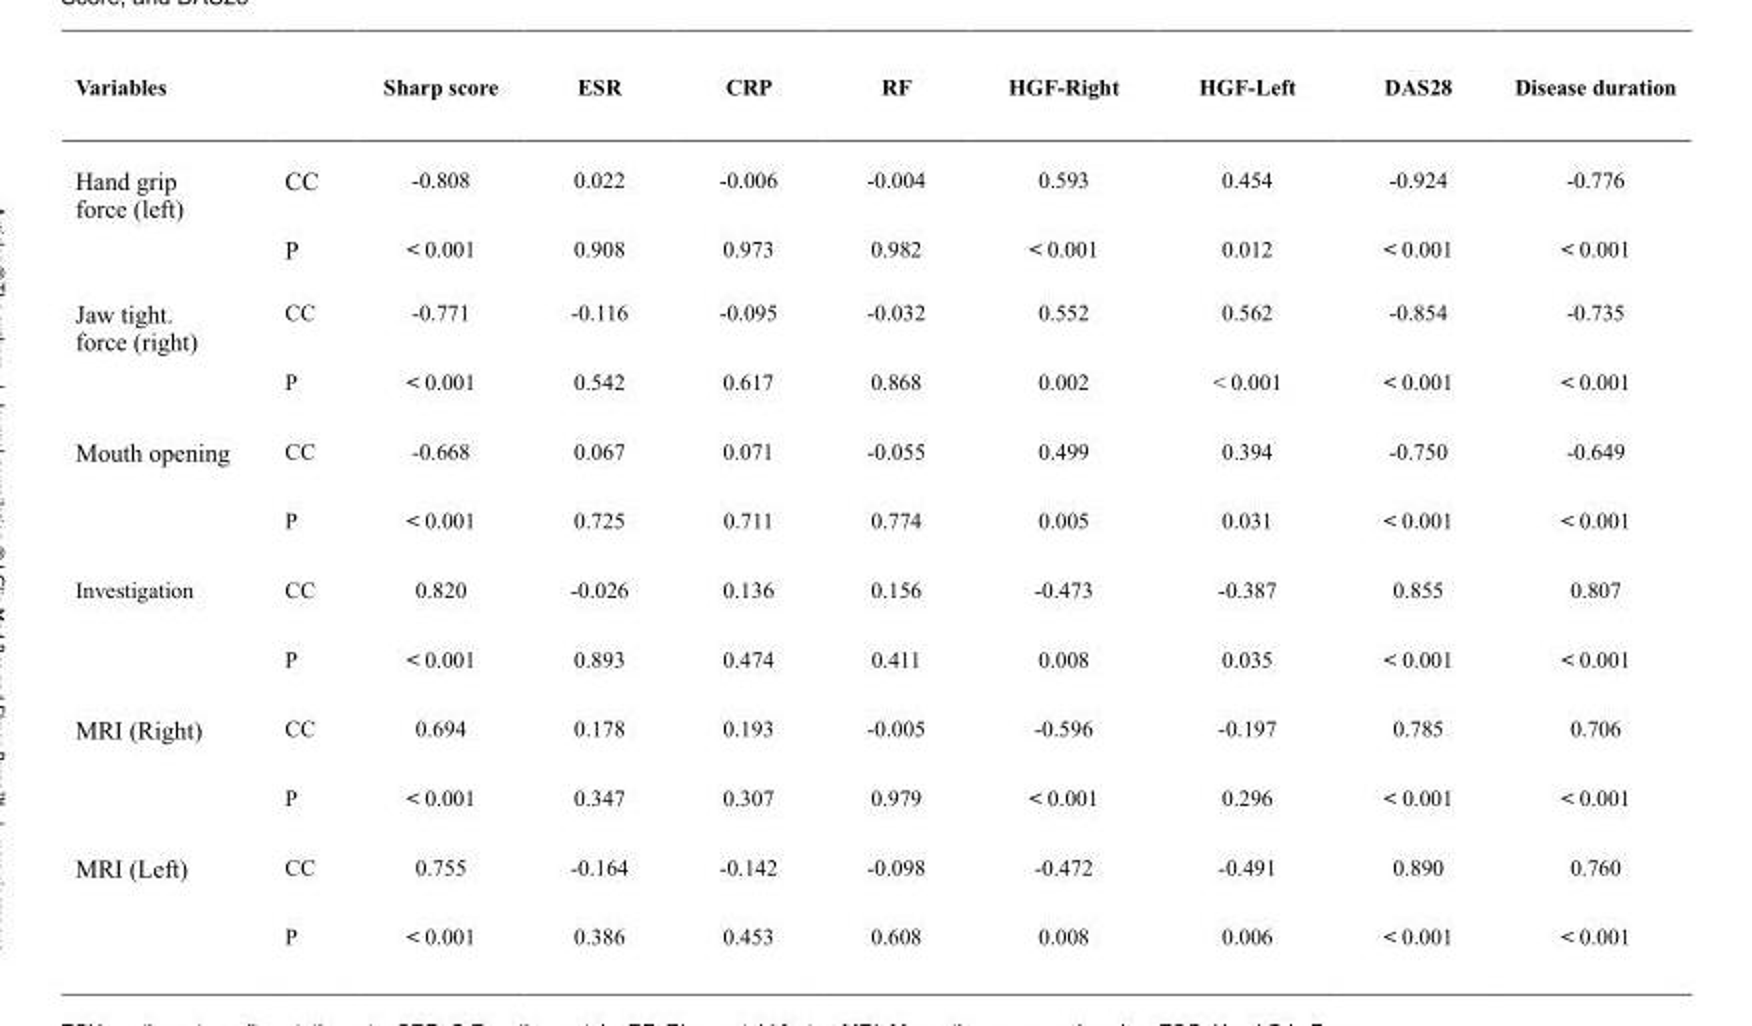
<table><thead><tr><td>Variables</td><td></td><td>Sharp score</td><td>ESR</td><td>CRP</td><td>RF</td><td>HGF-Right</td><td>HGF-Left</td><td>DAS28</td><td>Disease duration</td></tr></thead><tbody><tr><td rowspan="2">Hand grip force (left)</td><td>CC</td><td>-0.808</td><td>0.022</td><td>-0.006</td><td>-0.004</td><td>0.593</td><td>0.454</td><td>-0.924</td><td>-0.776</td></tr><tr><td>P</td><td>&lt; 0.001</td><td>0.908</td><td>0.973</td><td>0.982</td><td>&lt; 0.001</td><td>0.012</td><td>&lt; 0.001</td><td>&lt; 0.001</td></tr><tr><td rowspan="2">Jaw tight. force (right)</td><td>CC</td><td>-0.771</td><td>-0.116</td><td>-0.095</td><td>-0.032</td><td>0.552</td><td>0.562</td><td>-0.854</td><td>-0.735</td></tr><tr><td>P</td><td>&lt; 0.001</td><td>0.542</td><td>0.617</td><td>0.868</td><td>0.002</td><td>&lt; 0.001</td><td>&lt; 0.001</td><td>&lt; 0.001</td></tr><tr><td rowspan="2">Mouth opening</td><td>CC</td><td>-0.668</td><td>0.067</td><td>0.071</td><td>-0.055</td><td>0.499</td><td>0.394</td><td>-0.750</td><td>-0.649</td></tr><tr><td>P</td><td>&lt; 0.001</td><td>0.725</td><td>0.711</td><td>0.774</td><td>0.005</td><td>0.031</td><td>&lt; 0.001</td><td>&lt; 0.001</td></tr><tr><td rowspan="2">Investigation</td><td>CC</td><td>0.820</td><td>-0.026</td><td>0.136</td><td>0.156</td><td>-0.473</td><td>-0.387</td><td>0.855</td><td>0.807</td></tr><tr><td>P</td><td>&lt; 0.001</td><td>0.893</td><td>0.474</td><td>0.411</td><td>0.008</td><td>0.035</td><td>&lt; 0.001</td><td>&lt; 0.001</td></tr><tr><td rowspan="2">MRI (Right)</td><td>CC</td><td>0.694</td><td>0.178</td><td>0.193</td><td>-0.005</td><td>-0.596</td><td>-0.197</td><td>0.785</td><td>0.706</td></tr><tr><td>P</td><td>&lt; 0.001</td><td>0.347</td><td>0.307</td><td>0.979</td><td>&lt; 0.001</td><td>0.296</td><td>&lt; 0.001</td><td>&lt; 0.001</td></tr><tr><td rowspan="2">MRI (Left)</td><td>CC</td><td>0.755</td><td>-0.164</td><td>-0.142</td><td>-0.098</td><td>-0.472</td><td>-0.491</td><td>0.890</td><td>0.760</td></tr><tr><td>P</td><td>&lt; 0.001</td><td>0.386</td><td>0.453</td><td>0.608</td><td>0.008</td><td>0.006</td><td>&lt; 0.001</td><td>&lt; 0.001</td></tr></tbody></table>